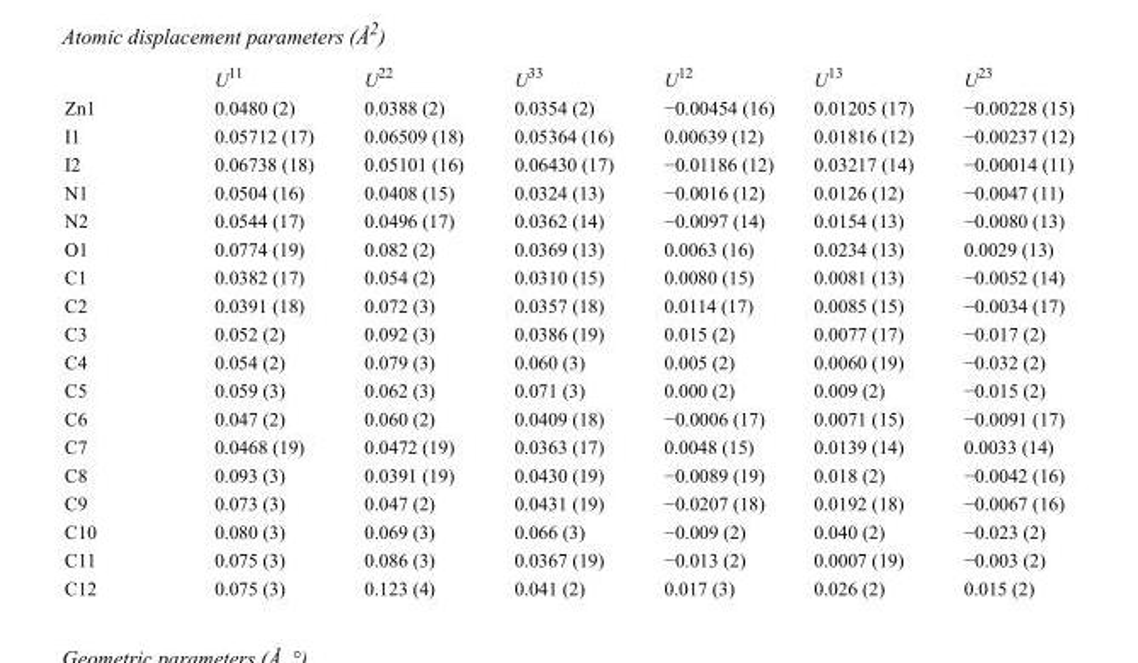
<table><thead><tr><td></td><td>U<sup>11</sup></td><td>U<sup>22</sup></td><td>U<sup>33</sup></td><td>U<sup>12</sup></td><td>U<sup>13</sup></td><td>U<sup>23</sup></td></tr></thead><tbody><tr><td>Zn1</td><td>0.0480 (2)</td><td>0.0388 (2)</td><td>0.0354 (2)</td><td>−0.00454 (16)</td><td>0.01205 (17)</td><td>−0.00228 (15)</td></tr><tr><td>I1</td><td>0.05712 (17)</td><td>0.06509 (18)</td><td>0.05364 (16)</td><td>0.00639 (12)</td><td>0.01816 (12)</td><td>−0.00237 (12)</td></tr><tr><td>I2</td><td>0.06738 (18)</td><td>0.05101 (16)</td><td>0.06430 (17)</td><td>−0.01186 (12)</td><td>0.03217 (14)</td><td>−0.00014 (11)</td></tr><tr><td>N1</td><td>0.0504 (16)</td><td>0.0408 (15)</td><td>0.0324 (13)</td><td>−0.0016 (12)</td><td>0.0126 (12)</td><td>−0.0047 (11)</td></tr><tr><td>N2</td><td>0.0544 (17)</td><td>0.0496 (17)</td><td>0.0362 (14)</td><td>−0.0097 (14)</td><td>0.0154 (13)</td><td>−0.0080 (13)</td></tr><tr><td>O1</td><td>0.0774 (19)</td><td>0.082 (2)</td><td>0.0369 (13)</td><td>0.0063 (16)</td><td>0.0234 (13)</td><td>0.0029 (13)</td></tr><tr><td>C1</td><td>0.0382 (17)</td><td>0.054 (2)</td><td>0.0310 (15)</td><td>0.0080 (15)</td><td>0.0081 (13)</td><td>−0.0052 (14)</td></tr><tr><td>C2</td><td>0.0391 (18)</td><td>0.072 (3)</td><td>0.0357 (18)</td><td>0.0114 (17)</td><td>0.0085 (15)</td><td>−0.0034 (17)</td></tr><tr><td>C3</td><td>0.052 (2)</td><td>0.092 (3)</td><td>0.0386 (19)</td><td>0.015 (2)</td><td>0.0077 (17)</td><td>−0.017 (2)</td></tr><tr><td>C4</td><td>0.054 (2)</td><td>0.079 (3)</td><td>0.060 (3)</td><td>0.005 (2)</td><td>0.0060 (19)</td><td>−0.032 (2)</td></tr><tr><td>C5</td><td>0.059 (3)</td><td>0.062 (3)</td><td>0.071 (3)</td><td>0.000 (2)</td><td>0.009 (2)</td><td>−0.015 (2)</td></tr><tr><td>C6</td><td>0.047 (2)</td><td>0.060 (2)</td><td>0.0409 (18)</td><td>−0.0006 (17)</td><td>0.0071 (15)</td><td>−0.0091 (17)</td></tr><tr><td>C7</td><td>0.0468 (19)</td><td>0.0472 (19)</td><td>0.0363 (17)</td><td>0.0048 (15)</td><td>0.0139 (14)</td><td>0.0033 (14)</td></tr><tr><td>C8</td><td>0.093 (3)</td><td>0.0391 (19)</td><td>0.0430 (19)</td><td>−0.0089 (19)</td><td>0.018 (2)</td><td>−0.0042 (16)</td></tr><tr><td>C9</td><td>0.073 (3)</td><td>0.047 (2)</td><td>0.0431 (19)</td><td>−0.0207 (18)</td><td>0.0192 (18)</td><td>−0.0067 (16)</td></tr><tr><td>C10</td><td>0.080 (3)</td><td>0.069 (3)</td><td>0.066 (3)</td><td>−0.009 (2)</td><td>0.040 (2)</td><td>−0.023 (2)</td></tr><tr><td>C11</td><td>0.075 (3)</td><td>0.086 (3)</td><td>0.0367 (19)</td><td>−0.013 (2)</td><td>0.0007 (19)</td><td>−0.003 (2)</td></tr><tr><td>C12</td><td>0.075 (3)</td><td>0.123 (4)</td><td>0.041 (2)</td><td>0.017 (3)</td><td>0.026 (2)</td><td>0.015 (2)</td></tr></tbody></table>